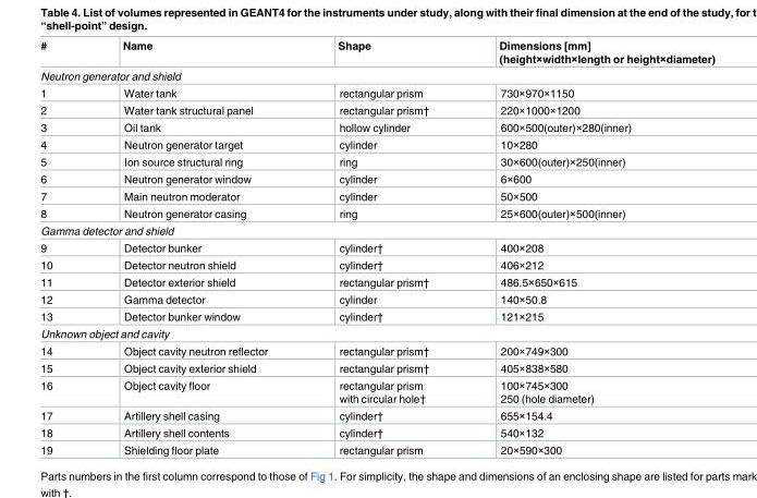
<table><thead><tr><td>#</td><td>Name</td><td>Shape</td><td>Dimensions [mm] (height×width×length or height×diameter)</td></tr></thead><tbody><tr><td colspan="4">Neutron generator and shield</td></tr><tr><td>1</td><td>Water tank</td><td>rectangular prism</td><td>730×970×1150</td></tr><tr><td>2</td><td>Water tank structural panel</td><td>rectangular prism†</td><td>220×1000×1200</td></tr><tr><td>3</td><td>Oil tank</td><td>hollow cylinder</td><td>600×500(outer)×280(inner)</td></tr><tr><td>4</td><td>Neutron generator target</td><td>cylinder</td><td>10×280</td></tr><tr><td>5</td><td>Ion source structural ring</td><td>ring</td><td>30×600(outer)×250(inner)</td></tr><tr><td>6</td><td>Neutron generator window</td><td>cylinder</td><td>6×600</td></tr><tr><td>7</td><td>Main neutron moderator</td><td>cylinder</td><td>50×500</td></tr><tr><td>8</td><td>Neutron generator casing</td><td>ring</td><td>25×600(outer)×500(inner)</td></tr><tr><td colspan="4">Gamma detector and shield</td></tr><tr><td>9</td><td>Detector bunker</td><td>cylinder†</td><td>400×208</td></tr><tr><td>10</td><td>Detector neutron shield</td><td>cylinder†</td><td>406×212</td></tr><tr><td>11</td><td>Detector exterior shield</td><td>rectangular prism†</td><td>486.5×650×615</td></tr><tr><td>12</td><td>Gamma detector</td><td>cylinder</td><td>140×50.8</td></tr><tr><td>13</td><td>Detector bunker window</td><td>cylinder†</td><td>121×215</td></tr><tr><td colspan="4">Unknown object and cavity</td></tr><tr><td>14</td><td>Object cavity neutron reflector</td><td>rectangular prism†</td><td>200×749×300</td></tr><tr><td>15</td><td>Object cavity exterior shield</td><td>rectangular prism†</td><td>405×838×580</td></tr><tr><td>16</td><td>Object cavity floor</td><td>rectangular prism with circular hole†</td><td>100×745×300 250 (hole diameter)</td></tr><tr><td>17</td><td>Artillery shell casing</td><td>cylinder†</td><td>655×154.4</td></tr><tr><td>18</td><td>Artillery shell contents</td><td>cylinder†</td><td>540×132</td></tr><tr><td>19</td><td>Shielding floor plate</td><td>rectangular prism</td><td>20×590×300</td></tr></tbody></table>